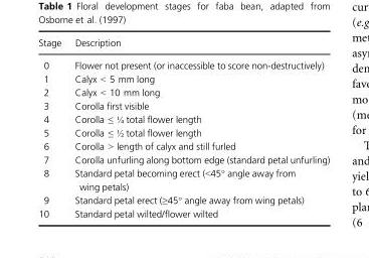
<table><thead><tr><td>Stage</td><td>Description</td></tr></thead><tbody><tr><td>0</td><td>Flower not present (or inaccessible to score non-destructively)</td></tr><tr><td>1</td><td>Calyx &lt; 5 mm long</td></tr><tr><td>2</td><td>Calyx &lt; 10 mm long</td></tr><tr><td>3</td><td>Corolla first visible</td></tr><tr><td>4</td><td>Corolla ≤ ¼ total flower length</td></tr><tr><td>5</td><td>Corolla ≤ ½ total flower length</td></tr><tr><td>6</td><td>Corolla &gt; length of calyx and still furled</td></tr><tr><td>7</td><td>Corolla unfurling along bottom edge (standard petal unfurling)</td></tr><tr><td>8</td><td>Standard petal becoming erect (&lt;45° angle away from wing petals)</td></tr><tr><td>9</td><td>Standard petal erect (≥45° angle away from wing petals)</td></tr><tr><td>10</td><td>Standard petal wilted/flower wilted</td></tr></tbody></table>